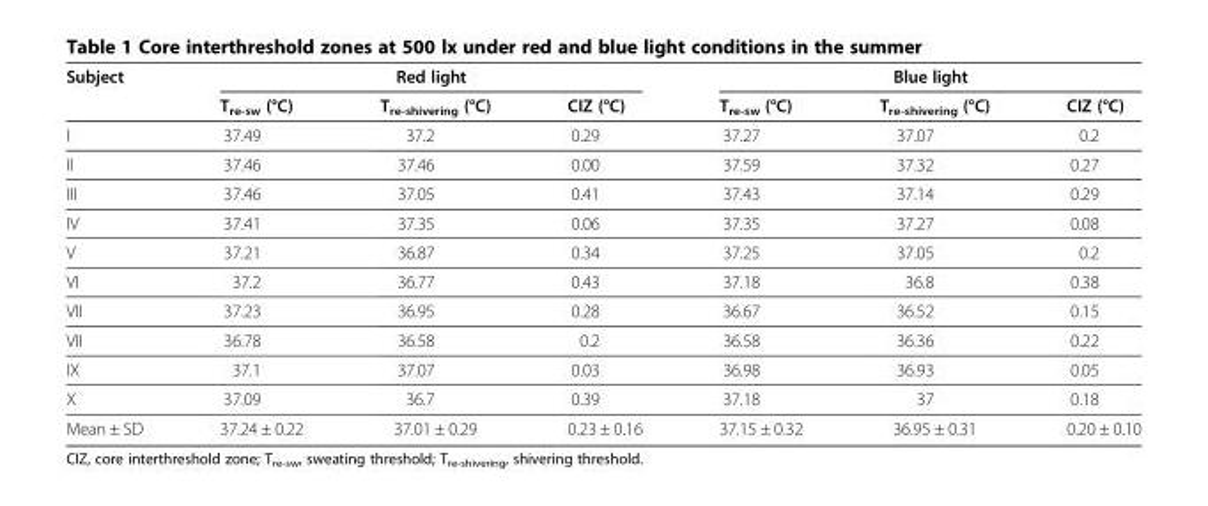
<table><thead><tr><td rowspan="2">Subject</td><td colspan="3">Red light</td><td colspan="3">Blue light</td></tr><tr><td>T<sub>re-sw</sub> (°C)</td><td>T<sub>re-shivering</sub> (°C)</td><td>CIZ (°C)</td><td>T<sub>re-sw</sub> (°C)</td><td>T<sub>re-shivering</sub> (°C)</td><td>CIZ (°C)</td></tr></thead><tbody><tr><td>I</td><td>37.49</td><td>37.2</td><td>0.29</td><td>37.27</td><td>37.07</td><td>0.2</td></tr><tr><td>II</td><td>37.46</td><td>37.46</td><td>0.00</td><td>37.59</td><td>37.32</td><td>0.27</td></tr><tr><td>III</td><td>37.46</td><td>37.05</td><td>0.41</td><td>37.43</td><td>37.14</td><td>0.29</td></tr><tr><td>IV</td><td>37.41</td><td>37.35</td><td>0.06</td><td>37.35</td><td>37.27</td><td>0.08</td></tr><tr><td>V</td><td>37.21</td><td>36.87</td><td>0.34</td><td>37.25</td><td>37.05</td><td>0.2</td></tr><tr><td>VI</td><td>37.2</td><td>36.77</td><td>0.43</td><td>37.18</td><td>36.8</td><td>0.38</td></tr><tr><td>VII</td><td>37.23</td><td>36.95</td><td>0.28</td><td>36.67</td><td>36.52</td><td>0.15</td></tr><tr><td>VII</td><td>36.78</td><td>36.58</td><td>0.2</td><td>36.58</td><td>36.36</td><td>0.22</td></tr><tr><td>IX</td><td>37.1</td><td>37.07</td><td>0.03</td><td>36.98</td><td>36.93</td><td>0.05</td></tr><tr><td>X</td><td>37.09</td><td>36.7</td><td>0.39</td><td>37.18</td><td>37</td><td>0.18</td></tr><tr><td>Mean ± SD</td><td>37.24 ± 0.22</td><td>37.01 ± 0.29</td><td>0.23 ± 0.16</td><td>37.15 ± 0.32</td><td>36.95 ± 0.31</td><td>0.20 ± 0.10</td></tr></tbody></table>